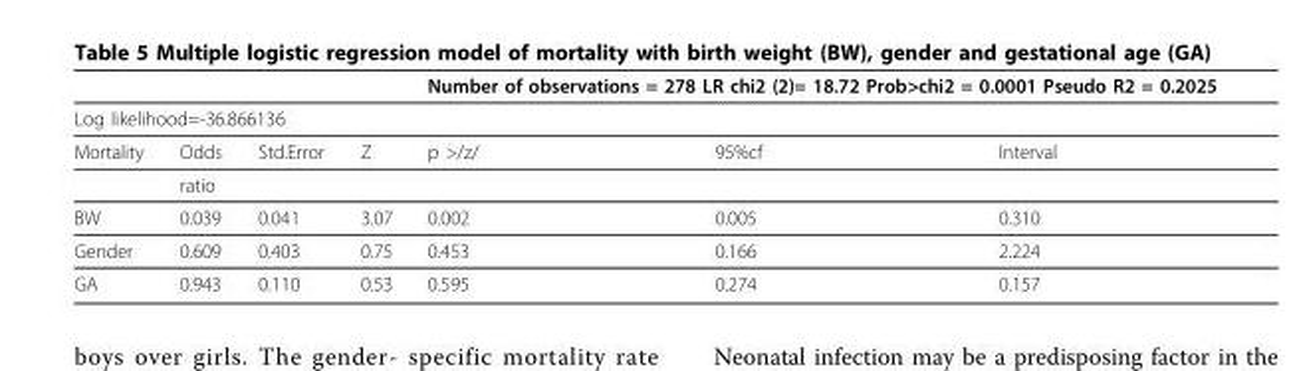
<table><thead><tr><td></td><td></td><td></td><td rowspan="2"></td><td colspan="3">Number of observations = 278 LR chi2 (2)= 18.72 Prob&gt;chi2 = 0.0001 Pseudo R2 = 0.2025</td></tr><tr><td colspan="3">Log likelihood=-36.866136</td><td></td><td></td><td></td></tr></thead><tbody><tr><td rowspan="2">Mortality</td><td>Odds</td><td>Std.Error</td><td>Z</td><td>p &gt;/z/</td><td>95%cf</td><td>Interval</td></tr><tr><td>ratio</td><td></td><td></td><td></td><td></td><td></td></tr><tr><td>BW</td><td>0.039</td><td>0.041</td><td>3.07</td><td>0.002</td><td>0.005</td><td>0.310</td></tr><tr><td>Gender</td><td>0.609</td><td>0.403</td><td>0.75</td><td>0.453</td><td>0.166</td><td>2.224</td></tr><tr><td>GA</td><td>0.943</td><td>0.110</td><td>0.53</td><td>0.595</td><td>0.274</td><td>0.157</td></tr></tbody></table>